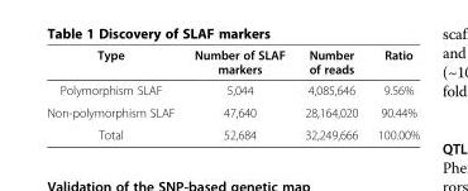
<table><thead><tr><td>Type</td><td>Number of SLAF markers</td><td>Number of reads</td><td>Ratio</td></tr></thead><tbody><tr><td>Polymorphism SLAF</td><td>5,044</td><td>4,085,646</td><td>9.56%</td></tr><tr><td>Non-polymorphism SLAF</td><td>47,640</td><td>28,164,020</td><td>90.44%</td></tr><tr><td>Total</td><td>52,684</td><td>32,249,666</td><td>100.00%</td></tr></tbody></table>